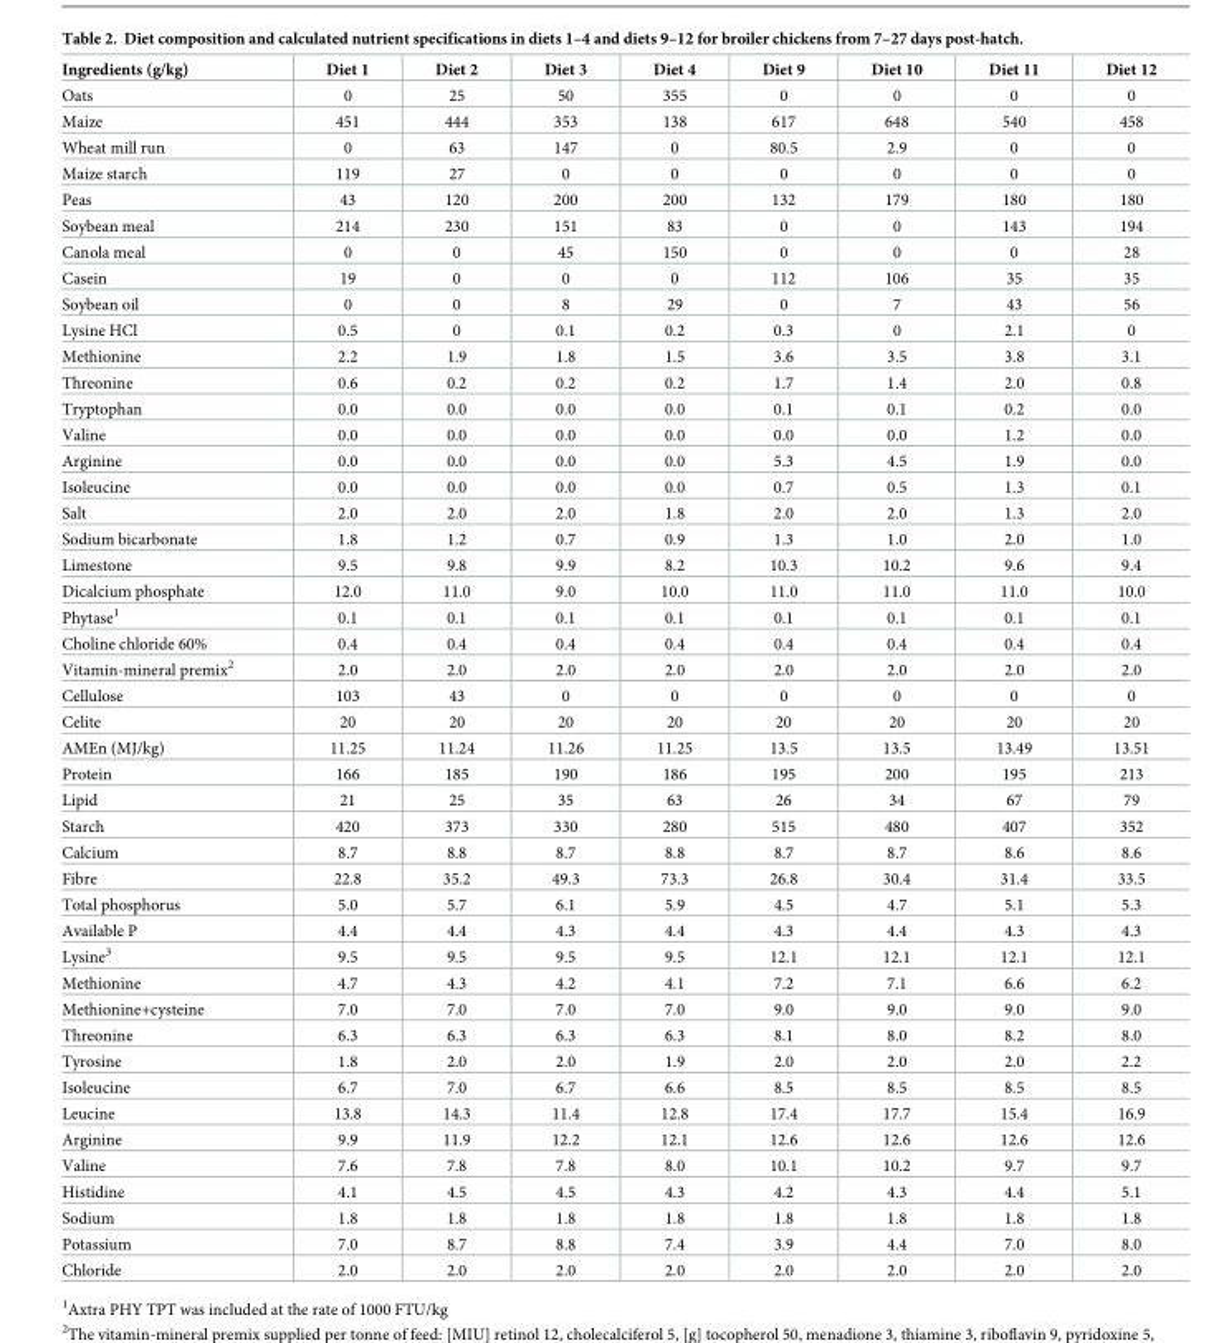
<table><thead><tr><td>Ingredients (g/kg)</td><td>Diet 1</td><td>Diet 2</td><td>Diet 3</td><td>Diet 4</td><td>Diet 9</td><td>Diet 10</td><td>Diet 11</td><td>Diet 12</td></tr></thead><tbody><tr><td>Oats</td><td>0</td><td>25</td><td>50</td><td>355</td><td>0</td><td>0</td><td>0</td><td>0</td></tr><tr><td>Maize</td><td>451</td><td>444</td><td>353</td><td>138</td><td>617</td><td>648</td><td>540</td><td>458</td></tr><tr><td>Wheat mill run</td><td>0</td><td>63</td><td>147</td><td>0</td><td>80.5</td><td>2.9</td><td>0</td><td>0</td></tr><tr><td>Maize starch</td><td>119</td><td>27</td><td>0</td><td>0</td><td>0</td><td>0</td><td>0</td><td>0</td></tr><tr><td>Peas</td><td>43</td><td>120</td><td>200</td><td>200</td><td>132</td><td>179</td><td>180</td><td>180</td></tr><tr><td>Soybean meal</td><td>214</td><td>230</td><td>151</td><td>83</td><td>0</td><td>0</td><td>143</td><td>194</td></tr><tr><td>Canola meal</td><td>0</td><td>0</td><td>45</td><td>150</td><td>0</td><td>0</td><td>0</td><td>28</td></tr><tr><td>Casein</td><td>19</td><td>0</td><td>0</td><td>0</td><td>112</td><td>106</td><td>35</td><td>35</td></tr><tr><td>Soybean oil</td><td>0</td><td>0</td><td>8</td><td>29</td><td>0</td><td>7</td><td>43</td><td>56</td></tr><tr><td>Lysine HCl</td><td>0.5</td><td>0</td><td>0.1</td><td>0.2</td><td>0.3</td><td>0</td><td>2.1</td><td>0</td></tr><tr><td>Methionine</td><td>2.2</td><td>1.9</td><td>1.8</td><td>1.5</td><td>3.6</td><td>3.5</td><td>3.8</td><td>3.1</td></tr><tr><td>Threonine</td><td>0.6</td><td>0.2</td><td>0.2</td><td>0.2</td><td>1.7</td><td>1.4</td><td>2.0</td><td>0.8</td></tr><tr><td>Tryptophan</td><td>0.0</td><td>0.0</td><td>0.0</td><td>0.0</td><td>0.1</td><td>0.1</td><td>0.2</td><td>0.0</td></tr><tr><td>Valine</td><td>0.0</td><td>0.0</td><td>0.0</td><td>0.0</td><td>0.0</td><td>0.0</td><td>1.2</td><td>0.0</td></tr><tr><td>Arginine</td><td>0.0</td><td>0.0</td><td>0.0</td><td>0.0</td><td>5.3</td><td>4.5</td><td>1.9</td><td>0.0</td></tr><tr><td>Isoleucine</td><td>0.0</td><td>0.0</td><td>0.0</td><td>0.0</td><td>0.7</td><td>0.5</td><td>1.3</td><td>0.1</td></tr><tr><td>Salt</td><td>2.0</td><td>2.0</td><td>2.0</td><td>1.8</td><td>2.0</td><td>2.0</td><td>1.3</td><td>2.0</td></tr><tr><td>Sodium bicarbonate</td><td>1.8</td><td>1.2</td><td>0.7</td><td>0.9</td><td>1.3</td><td>1.0</td><td>2.0</td><td>1.0</td></tr><tr><td>Limestone</td><td>9.5</td><td>9.8</td><td>9.9</td><td>8.2</td><td>10.3</td><td>10.2</td><td>9.6</td><td>9.4</td></tr><tr><td>Dicalcium phosphate</td><td>12.0</td><td>11.0</td><td>9.0</td><td>10.0</td><td>11.0</td><td>11.0</td><td>11.0</td><td>10.0</td></tr><tr><td>Phytase<sup>1</sup></td><td>0.1</td><td>0.1</td><td>0.1</td><td>0.1</td><td>0.1</td><td>0.1</td><td>0.1</td><td>0.1</td></tr><tr><td>Choline chloride 60%</td><td>0.4</td><td>0.4</td><td>0.4</td><td>0.4</td><td>0.4</td><td>0.4</td><td>0.4</td><td>0.4</td></tr><tr><td>Vitamin-mineral premix<sup>2</sup></td><td>2.0</td><td>2.0</td><td>2.0</td><td>2.0</td><td>2.0</td><td>2.0</td><td>2.0</td><td>2.0</td></tr><tr><td>Cellulose</td><td>103</td><td>43</td><td>0</td><td>0</td><td>0</td><td>0</td><td>0</td><td>0</td></tr><tr><td>Celite</td><td>20</td><td>20</td><td>20</td><td>20</td><td>20</td><td>20</td><td>20</td><td>20</td></tr><tr><td>AMEn (MJ/kg)</td><td>11.25</td><td>11.24</td><td>11.26</td><td>11.25</td><td>13.5</td><td>13.5</td><td>13.49</td><td>13.51</td></tr><tr><td>Protein</td><td>166</td><td>185</td><td>190</td><td>186</td><td>195</td><td>200</td><td>195</td><td>213</td></tr><tr><td>Lipid</td><td>21</td><td>25</td><td>35</td><td>63</td><td>26</td><td>34</td><td>67</td><td>79</td></tr><tr><td>Starch</td><td>420</td><td>373</td><td>330</td><td>280</td><td>515</td><td>480</td><td>407</td><td>352</td></tr><tr><td>Calcium</td><td>8.7</td><td>8.8</td><td>8.7</td><td>8.8</td><td>8.7</td><td>8.7</td><td>8.6</td><td>8.6</td></tr><tr><td>Fibre</td><td>22.8</td><td>35.2</td><td>49.3</td><td>73.3</td><td>26.8</td><td>30.4</td><td>31.4</td><td>33.5</td></tr><tr><td>Total phosphorus</td><td>5.0</td><td>5.7</td><td>6.1</td><td>5.9</td><td>4.5</td><td>4.7</td><td>5.1</td><td>5.3</td></tr><tr><td>Available P</td><td>4.4</td><td>4.4</td><td>4.3</td><td>4.4</td><td>4.3</td><td>4.4</td><td>4.3</td><td>4.3</td></tr><tr><td>Lysine<sup>3</sup></td><td>9.5</td><td>9.5</td><td>9.5</td><td>9.5</td><td>12.1</td><td>12.1</td><td>12.1</td><td>12.1</td></tr><tr><td>Methionine</td><td>4.7</td><td>4.3</td><td>4.2</td><td>4.1</td><td>7.2</td><td>7.1</td><td>6.6</td><td>6.2</td></tr><tr><td>Methionine+cysteine</td><td>7.0</td><td>7.0</td><td>7.0</td><td>7.0</td><td>9.0</td><td>9.0</td><td>9.0</td><td>9.0</td></tr><tr><td>Threonine</td><td>6.3</td><td>6.3</td><td>6.3</td><td>6.3</td><td>8.1</td><td>8.0</td><td>8.2</td><td>8.0</td></tr><tr><td>Tyrosine</td><td>1.8</td><td>2.0</td><td>2.0</td><td>1.9</td><td>2.0</td><td>2.0</td><td>2.0</td><td>2.2</td></tr><tr><td>Isoleucine</td><td>6.7</td><td>7.0</td><td>6.7</td><td>6.6</td><td>8.5</td><td>8.5</td><td>8.5</td><td>8.5</td></tr><tr><td>Leucine</td><td>13.8</td><td>14.3</td><td>11.4</td><td>12.8</td><td>17.4</td><td>17.7</td><td>15.4</td><td>16.9</td></tr><tr><td>Arginine</td><td>9.9</td><td>11.9</td><td>12.2</td><td>12.1</td><td>12.6</td><td>12.6</td><td>12.6</td><td>12.6</td></tr><tr><td>Valine</td><td>7.6</td><td>7.8</td><td>7.8</td><td>8.0</td><td>10.1</td><td>10.2</td><td>9.7</td><td>9.7</td></tr><tr><td>Histidine</td><td>4.1</td><td>4.5</td><td>4.5</td><td>4.3</td><td>4.2</td><td>4.3</td><td>4.4</td><td>5.1</td></tr><tr><td>Sodium</td><td>1.8</td><td>1.8</td><td>1.8</td><td>1.8</td><td>1.8</td><td>1.8</td><td>1.8</td><td>1.8</td></tr><tr><td>Potassium</td><td>7.0</td><td>8.7</td><td>8.8</td><td>7.4</td><td>3.9</td><td>4.4</td><td>7.0</td><td>8.0</td></tr><tr><td>Chloride</td><td>2.0</td><td>2.0</td><td>2.0</td><td>2.0</td><td>2.0</td><td>2.0</td><td>2.0</td><td>2.0</td></tr></tbody></table>